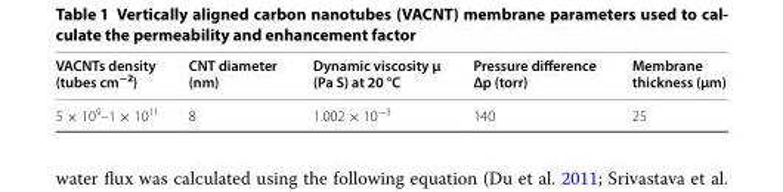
<table><thead><tr><td>VACNTs density (tubes cm<sup>−2</sup>)</td><td>CNT diameter (nm)</td><td>Dynamic viscosity µ (Pa S) at 20 °C</td><td>Pressure difference Δp (torr)</td><td>Membrane thickness (µm)</td></tr></thead><tbody><tr><td>5 × 10<sup>9</sup>–1 × 10<sup>11</sup></td><td>8</td><td>1.002 × 10<sup>−3</sup></td><td>140</td><td>25</td></tr></tbody></table>